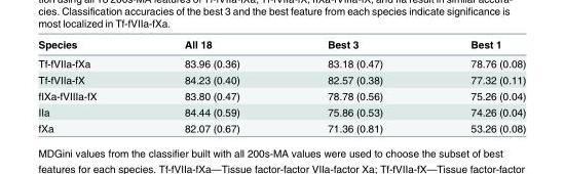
<table><thead><tr><td>Species</td><td>All 18</td><td>Best 3</td><td>Best 1</td></tr></thead><tbody><tr><td>Tf-fVIIa-fXa</td><td>83.96 (0.36)</td><td>83.18 (0.47)</td><td>78.76 (0.08)</td></tr><tr><td>Tf-fVIIa-fX</td><td>84.23 (0.40)</td><td>82.57 (0.38)</td><td>77.32 (0.11)</td></tr><tr><td>fIXa-fVIIIa-fX</td><td>83.80 (0.47)</td><td>78.78 (0.56)</td><td>75.26 (0.04)</td></tr><tr><td>IIa</td><td>84.44 (0.59)</td><td>75.86 (0.53)</td><td>74.26 (0.04)</td></tr><tr><td>fXa</td><td>82.07 (0.67)</td><td>71.36 (0.81)</td><td>53.26 (0.08)</td></tr></tbody></table>